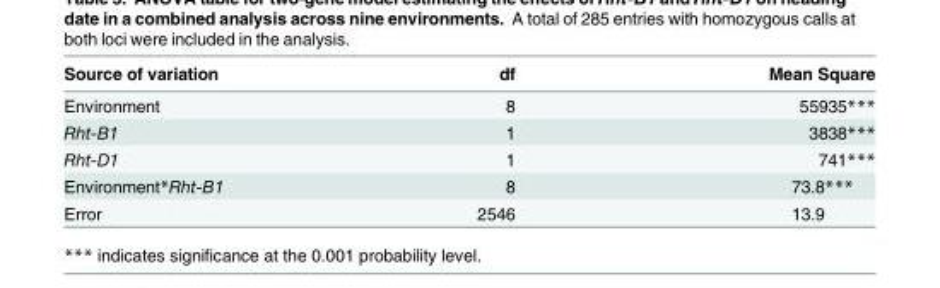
<table><thead><tr><td>Source of variation</td><td>df</td><td>Mean Square</td></tr></thead><tbody><tr><td>Environment</td><td>8</td><td>55935***</td></tr><tr><td>Rht-B1</td><td>1</td><td>3838***</td></tr><tr><td>Rht-D1</td><td>1</td><td>741***</td></tr><tr><td>Environment*Rht-B1</td><td>8</td><td>73.8***</td></tr><tr><td>Error</td><td>2546</td><td>13.9</td></tr></tbody></table>